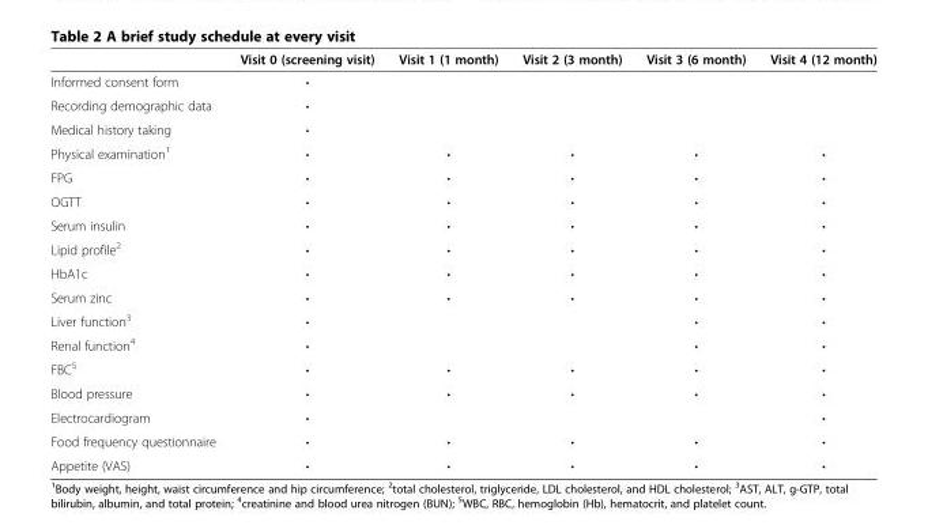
<table><thead><tr><td></td><td>Visit 0 (screening visit)</td><td>Visit 1 (1 month)</td><td>Visit 2 (3 month)</td><td>Visit 3 (6 month)</td><td>Visit 4 (12 month)</td></tr></thead><tbody><tr><td>Informed consent form</td><td>•</td><td></td><td></td><td></td><td></td></tr><tr><td>Recording demographic data</td><td>•</td><td></td><td></td><td></td><td></td></tr><tr><td>Medical history taking</td><td>•</td><td></td><td></td><td></td><td></td></tr><tr><td>Physical examination<sup>1</sup></td><td>•</td><td>•</td><td>•</td><td>•</td><td>•</td></tr><tr><td>FPG</td><td>•</td><td>•</td><td>•</td><td>•</td><td>•</td></tr><tr><td>OGTT</td><td>•</td><td>•</td><td>•</td><td>•</td><td>•</td></tr><tr><td>Serum insulin</td><td>•</td><td>•</td><td>•</td><td>•</td><td>•</td></tr><tr><td>Lipid profile<sup>2</sup></td><td>•</td><td>•</td><td>•</td><td>•</td><td>•</td></tr><tr><td>HbA1c</td><td>•</td><td>•</td><td>•</td><td>•</td><td>•</td></tr><tr><td>Serum zinc</td><td>•</td><td>•</td><td>•</td><td>•</td><td>•</td></tr><tr><td>Liver function<sup>3</sup></td><td>•</td><td></td><td></td><td>•</td><td>•</td></tr><tr><td>Renal function<sup>4</sup></td><td>•</td><td></td><td></td><td>•</td><td>•</td></tr><tr><td>FBC<sup>5</sup></td><td>•</td><td>•</td><td>•</td><td>•</td><td>•</td></tr><tr><td>Blood pressure</td><td>•</td><td>•</td><td>•</td><td>•</td><td>•</td></tr><tr><td>Electrocardiogram</td><td>•</td><td></td><td></td><td></td><td>•</td></tr><tr><td>Food frequency questionnaire</td><td>•</td><td>•</td><td>•</td><td>•</td><td>•</td></tr><tr><td>Appetite (VAS)</td><td>•</td><td>•</td><td>•</td><td>•</td><td>•</td></tr></tbody></table>